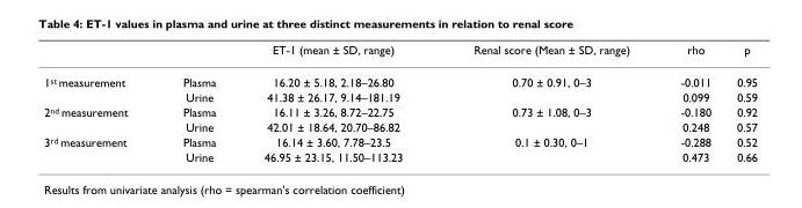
<table><thead><tr><td></td><td></td><td>ET-1 (mean ± SD, range)</td><td>Renal score (Mean ± SD, range)</td><td>rho</td><td>p</td></tr></thead><tbody><tr><td rowspan="2">1<sup>st</sup> measurement</td><td>Plasma</td><td>16.20 ± 5.18, 2.18–26.80</td><td>0.70 ± 0.91, 0–3</td><td>-0.011</td><td>0.95</td></tr><tr><td>Urine</td><td>41.38 ± 26.17, 9.14–181.19</td><td></td><td>0.099</td><td>0.59</td></tr><tr><td rowspan="2">2<sup>nd</sup> measurement</td><td>Plasma</td><td>16.11 ± 3.26, 8.72–22.75</td><td>0.73 ± 1.08, 0–3</td><td>-0.180</td><td>0.92</td></tr><tr><td>Urine</td><td>42.01 ± 18.64, 20.70–86.82</td><td></td><td>0.248</td><td>0.57</td></tr><tr><td rowspan="2">3<sup>rd</sup> measurement</td><td>Plasma</td><td>16.14 ± 3.60, 7.78–23.5</td><td>0.1 ± 0.30, 0–1</td><td>-0.288</td><td>0.52</td></tr><tr><td>Urine</td><td>46.95 ± 23.15, 11.50–113.23</td><td></td><td>0.473</td><td>0.66</td></tr></tbody></table>